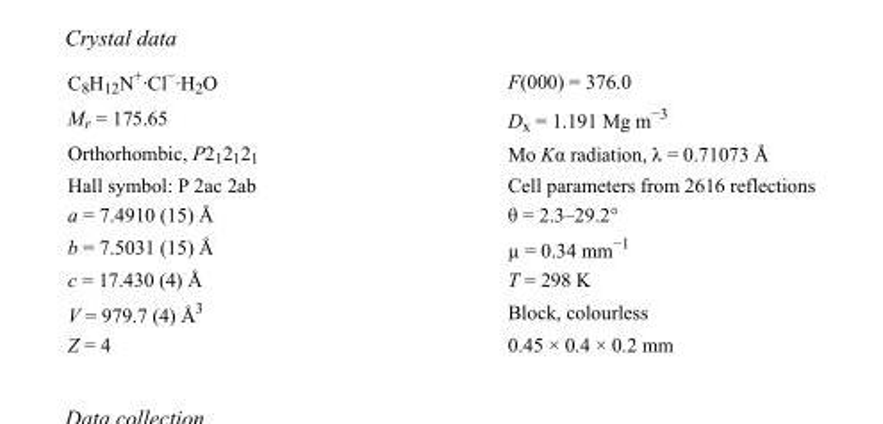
<table><tbody><tr><td>C<sub>8</sub>H<sub>12</sub>N<sup>+</sup>·Cl<sup>−</sup>·H<sub>2</sub>O</td><td>F(000) = 376.0</td></tr><tr><td>M<sub>r</sub> = 175.65</td><td>D<sub>x</sub> = 1.191 Mg m<sup>−3</sup></td></tr><tr><td>Orthorhombic, P2<sub>1</sub>2<sub>1</sub>2<sub>1</sub></td><td>Mo Kα radiation, λ = 0.71073 Å</td></tr><tr><td>Hall symbol: P 2ac 2ab</td><td>Cell parameters from 2616 reflections</td></tr><tr><td>a = 7.4910 (15) Å</td><td>θ = 2.3–29.2°</td></tr><tr><td>b = 7.5031 (15) Å</td><td>µ = 0.34 mm<sup>−1</sup></td></tr><tr><td>c = 17.430 (4) Å</td><td>T = 298 K</td></tr><tr><td>V = 979.7 (4) Å<sup>3</sup></td><td>Block, colourless</td></tr><tr><td>Z = 4</td><td>0.45 × 0.4 × 0.2 mm</td></tr></tbody></table>